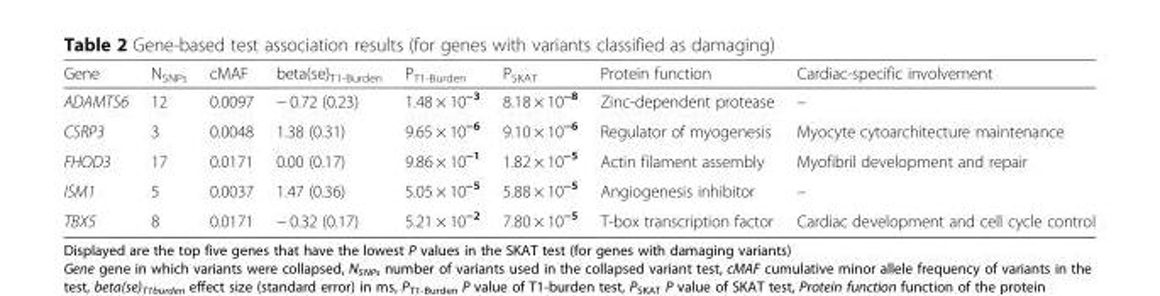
<table><thead><tr><td>Gene</td><td>N<sub>SNPs</sub></td><td>cMAF</td><td>beta(se)<sub>T1-Burden</sub></td><td>P<sub>T1-Burden</sub></td><td>P<sub>SKAT</sub></td><td>Protein function</td><td>Cardiac-specific involvement</td></tr></thead><tbody><tr><td>ADAMTS6</td><td>12</td><td>0.0097</td><td>− 0.72 (0.23)</td><td>1.48 × 10<sup>−3</sup></td><td>8.18 × 10<sup>−8</sup></td><td>Zinc-dependent protease</td><td>–</td></tr><tr><td>CSRP3</td><td>3</td><td>0.0048</td><td>1.38 (0.31)</td><td>9.65 × 10<sup>−6</sup></td><td>9.10 × 10<sup>−6</sup></td><td>Regulator of myogenesis</td><td>Myocyte cytoarchitecture maintenance</td></tr><tr><td>FHOD3</td><td>17</td><td>0.0171</td><td>0.00 (0.17)</td><td>9.86 × 10<sup>−1</sup></td><td>1.82 × 10<sup>−5</sup></td><td>Actin filament assembly</td><td>Myofibril development and repair</td></tr><tr><td>ISM1</td><td>5</td><td>0.0037</td><td>1.47 (0.36)</td><td>5.05 × 10<sup>−5</sup></td><td>5.88 × 10<sup>−5</sup></td><td>Angiogenesis inhibitor</td><td>–</td></tr><tr><td>TBX5</td><td>8</td><td>0.0171</td><td>− 0.32 (0.17)</td><td>5.21 × 10<sup>−2</sup></td><td>7.80 × 10<sup>−5</sup></td><td>T-box transcription factor</td><td>Cardiac development and cell cycle control</td></tr></tbody></table>